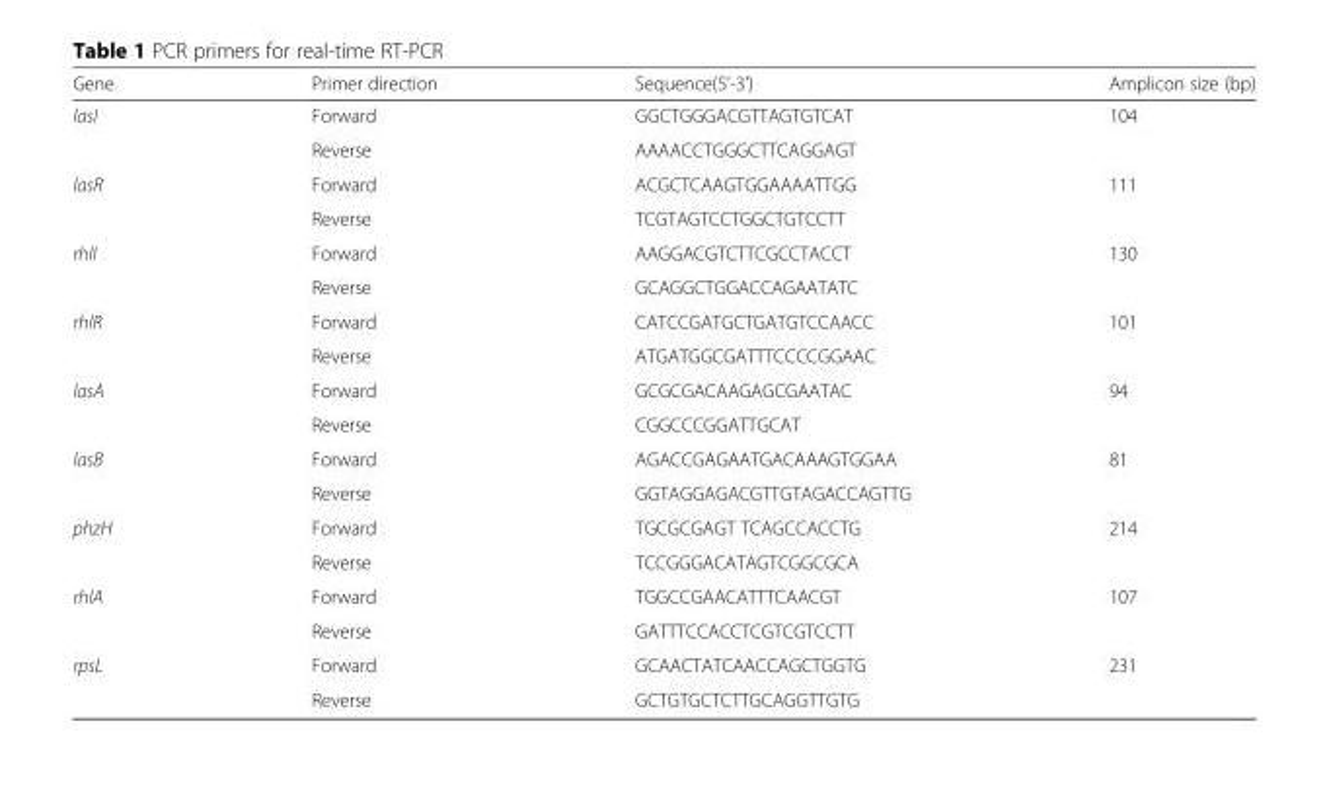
<table><thead><tr><td>Gene</td><td>Primer direction</td><td>Sequence(5’-3’)</td><td>Amplicon size (bp)</td></tr></thead><tbody><tr><td rowspan="2">lasI</td><td>Forward</td><td>GGCTGGGACGTTAGTGTCAT</td><td>104</td></tr><tr><td>Reverse</td><td>AAAACCTGGGCTTCAGGAGT</td><td></td></tr><tr><td rowspan="2">lasR</td><td>Forward</td><td>ACGCTCAAGTGGAAAATTGG</td><td>111</td></tr><tr><td>Reverse</td><td>TCGTAGTCCTGGCTGTCCTT</td><td></td></tr><tr><td rowspan="2">rhlI</td><td>Forward</td><td>AAGGACGTCTTCGCCTACCT</td><td>130</td></tr><tr><td>Reverse</td><td>GCAGGCTGGACCAGAATATC</td><td></td></tr><tr><td rowspan="2">rhlR</td><td>Forward</td><td>CATCCGATGCTGATGTCCAACC</td><td>101</td></tr><tr><td>Reverse</td><td>ATGATGGCGATTTCCCCGGAAC</td><td></td></tr><tr><td rowspan="2">lasA</td><td>Forward</td><td>GCGCGACAAGAGCGAATAC</td><td>94</td></tr><tr><td>Reverse</td><td>CGGCCCGGATTGCAT</td><td></td></tr><tr><td rowspan="2">lasB</td><td>Forward</td><td>AGACCGAGAATGACAAAGTGGAA</td><td>81</td></tr><tr><td>Reverse</td><td>GGTAGGAGACGTTGTAGACCAGTTG</td><td></td></tr><tr><td rowspan="2">phzH</td><td>Forward</td><td>TGCGCGAGT TCAGCCACCTG</td><td>214</td></tr><tr><td>Reverse</td><td>TCCGGGACATAGTCGGCGCA</td><td></td></tr><tr><td rowspan="2">rhlA</td><td>Forward</td><td>TGGCCGAACATTTCAACGT</td><td>107</td></tr><tr><td>Reverse</td><td>GATTTCCACCTCGTCGTCCTT</td><td></td></tr><tr><td rowspan="2">rpsL</td><td>Forward</td><td>GCAACTATCAACCAGCTGGTG</td><td>231</td></tr><tr><td>Reverse</td><td>GCTGTGCTCTTGCAGGTTGTG</td><td></td></tr></tbody></table>